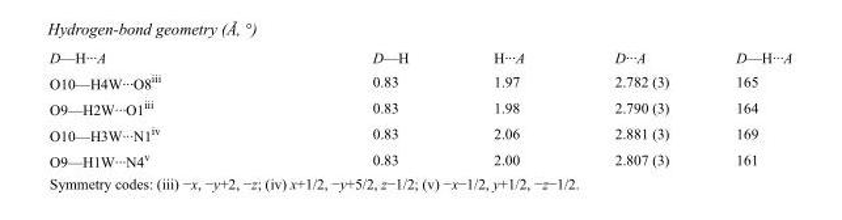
<table><tbody><tr><td>D—H···A</td><td>D—H</td><td>H···A</td><td>D···A</td><td>D—H···A</td></tr><tr><td>O10—H4W···O8<sup>iii</sup></td><td>0.83</td><td>1.97</td><td>2.782 (3)</td><td>165</td></tr><tr><td>O9—H2W···O1<sup>iii</sup></td><td>0.83</td><td>1.98</td><td>2.790 (3)</td><td>164</td></tr><tr><td>O10—H3W···N1<sup>iv</sup></td><td>0.83</td><td>2.06</td><td>2.881 (3)</td><td>169</td></tr><tr><td>O9—H1W···N4<sup>v</sup></td><td>0.83</td><td>2.00</td><td>2.807 (3)</td><td>161</td></tr></tbody></table>